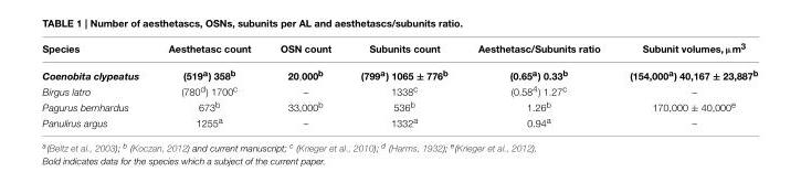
<table><thead><tr><td>Species</td><td>Aesthetasc count</td><td>OSN count</td><td>Subunits count</td><td>Aesthetasc/Subunits ratio</td><td>Subunit volumes, µm<sup>3</sup></td></tr></thead><tbody><tr><td>Coenobita clypeatus</td><td>(519<sup>a</sup>) 358<sup>b</sup></td><td>20,000<sup>b</sup></td><td>(799<sup>a</sup>) 1065 ± 776<sup>b</sup></td><td>(0.65<sup>a</sup>) 0.33<sup>b</sup></td><td>(154,000<sup>a</sup>) 40,167 ± 23,887<sup>b</sup></td></tr><tr><td>Birgus latro</td><td>(780<sup>d</sup>) 1700<sup>c</sup></td><td>–</td><td>1338<sup>c</sup></td><td>(0.58<sup>4</sup>) 1.27<sup>c</sup></td><td>–</td></tr><tr><td>Pagurus bernhardus</td><td>673<sup>b</sup></td><td>33,000<sup>b</sup></td><td>536<sup>b</sup></td><td>1.26<sup>b</sup></td><td>170,000 ± 40,000<sup>e</sup></td></tr><tr><td>Panulirus argus</td><td>1255<sup>a</sup></td><td>–</td><td>1332<sup>a</sup></td><td>0.94<sup>a</sup></td><td>–</td></tr></tbody></table>